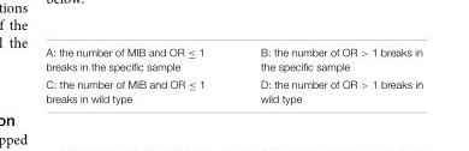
<table><tbody><tr><td>A: the number of MIB and OR ≤ 1 breaks in the specific sample</td><td>B: the number of OR &gt; 1 breaks in the specific sample</td></tr><tr><td>C: the number of MIB and OR ≤ 1 breaks in wild type</td><td>D: the number of OR &gt; 1 breaks in wild type</td></tr></tbody></table>